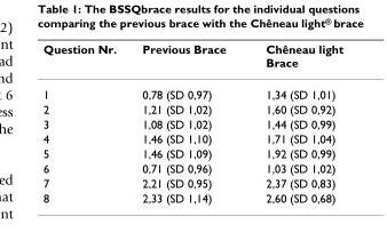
<table><thead><tr><td>Question Nr.</td><td>Previous Brace</td><td>Chêneau light Brace</td></tr></thead><tbody><tr><td>1</td><td>0,78 (SD 0,97)</td><td>1,34 (SD 1,01)</td></tr><tr><td>2</td><td>1,21 (SD 1,02)</td><td>1,60 (SD 0,92)</td></tr><tr><td>3</td><td>1,08 (SD 1,02)</td><td>1,44 (SD 0,99)</td></tr><tr><td>4</td><td>1,46 (SD 1,10)</td><td>1,71 (SD 1,04)</td></tr><tr><td>5</td><td>1,46 (SD 1,09)</td><td>1,92 (SD 0,99)</td></tr><tr><td>6</td><td>0,71 (SD 0,96)</td><td>1,03 (SD 1,02)</td></tr><tr><td>7</td><td>2,21 (SD 0,95)</td><td>2,37 (SD 0,83)</td></tr><tr><td>8</td><td>2,33 (SD 1,14)</td><td>2,60 (SD 0,68)</td></tr></tbody></table>